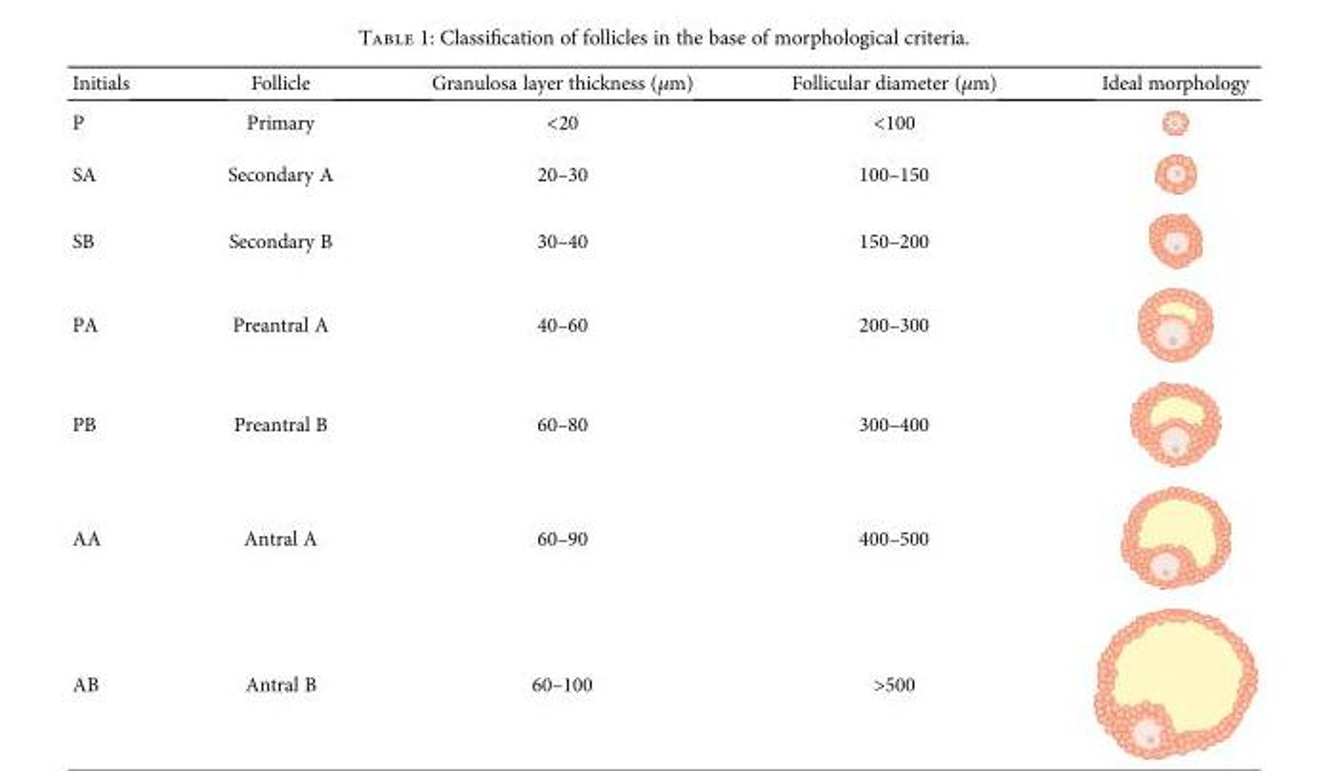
<table><thead><tr><td>Initials</td><td>Follicle</td><td>Granulosa layer thickness (μm)</td><td>Follicular diameter (μm)</td><td>Ideal morphology</td></tr></thead><tbody><tr><td>P</td><td>Primary</td><td>&lt;20</td><td>&lt;100</td><td></td></tr><tr><td>SA</td><td>Secondary A</td><td>20–30</td><td>100–150</td><td></td></tr><tr><td>SB</td><td>Secondary B</td><td>30–40</td><td>150–200</td><td></td></tr><tr><td>PA</td><td>Preantral A</td><td>40–60</td><td>200–300</td><td></td></tr><tr><td>PB</td><td>Preantral B</td><td>60–80</td><td>300–400</td><td></td></tr><tr><td>AA</td><td>Antral A</td><td>60–90</td><td>400–500</td><td></td></tr><tr><td>AB</td><td>Antral B</td><td>60–100</td><td>&gt;500</td><td></td></tr></tbody></table>